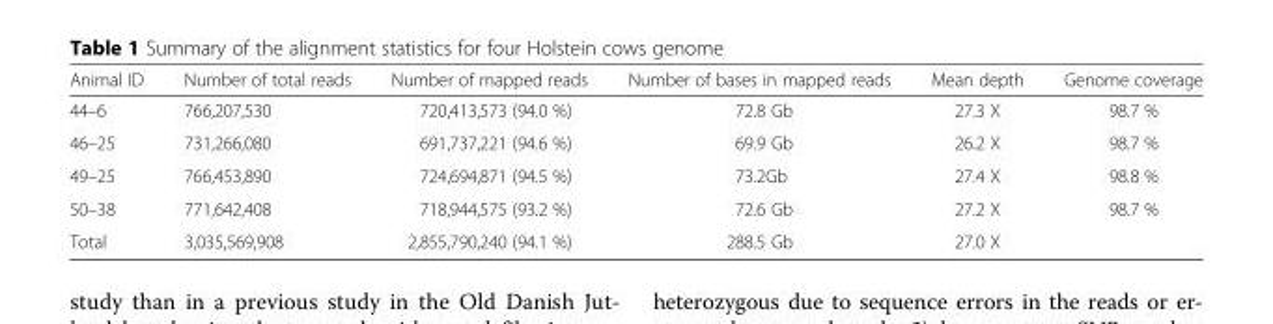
<table><thead><tr><td>Animal ID</td><td>Number of total reads</td><td>Number of mapped reads</td><td>Number of bases in mapped reads</td><td>Mean depth</td><td>Genome coverage</td></tr></thead><tbody><tr><td>44–6</td><td>766,207,530</td><td>720,413,573 (94.0 %)</td><td>72.8 Gb</td><td>27.3 X</td><td>98.7 %</td></tr><tr><td>46–25</td><td>731,266,080</td><td>691,737,221 (94.6 %)</td><td>69.9 Gb</td><td>26.2 X</td><td>98.7 %</td></tr><tr><td>49–25</td><td>766,453,890</td><td>724,694,871 (94.5 %)</td><td>73.2Gb</td><td>27.4 X</td><td>98.8 %</td></tr><tr><td>50–38</td><td>771,642,408</td><td>718,944,575 (93.2 %)</td><td>72.6 Gb</td><td>27.2 X</td><td>98.7 %</td></tr><tr><td>Total</td><td>3,035,569,908</td><td>2,855,790,240 (94.1 %)</td><td>288.5 Gb</td><td>27.0 X</td><td></td></tr></tbody></table>